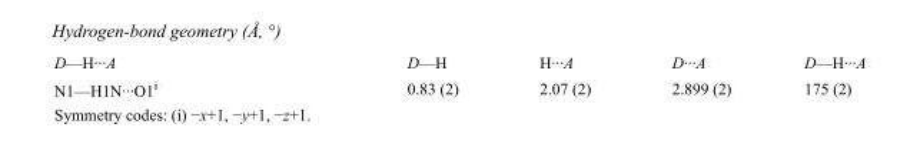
<table><tbody><tr><td>D—H···A</td><td>D—H</td><td>H···A</td><td>D···A</td><td>D—H···A</td></tr><tr><td>N1—H1N···O1<sup>i</sup></td><td>0.83 (2)</td><td>2.07 (2)</td><td>2.899 (2)</td><td>175 (2)</td></tr></tbody></table>